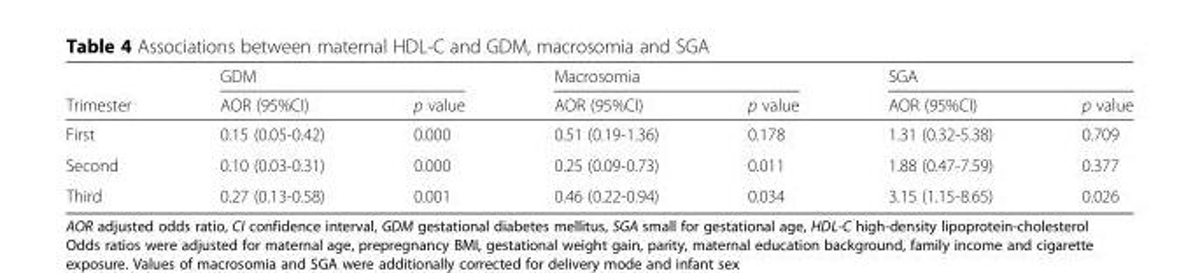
<table><thead><tr><td rowspan="2">Trimester</td><td colspan="2">GDM</td><td colspan="2">Macrosomia</td><td colspan="2">SGA</td></tr><tr><td>AOR (95%CI)</td><td>p value</td><td>AOR (95%CI)</td><td>p value</td><td>AOR (95%CI)</td><td>p value</td></tr></thead><tbody><tr><td>First</td><td>0.15 (0.05-0.42)</td><td>0.000</td><td>0.51 (0.19-1.36)</td><td>0.178</td><td>1.31 (0.32-5.38)</td><td>0.709</td></tr><tr><td>Second</td><td>0.10 (0.03-0.31)</td><td>0.000</td><td>0.25 (0.09-0.73)</td><td>0.011</td><td>1.88 (0.47-7.59)</td><td>0.377</td></tr><tr><td>Third</td><td>0.27 (0.13-0.58)</td><td>0.001</td><td>0.46 (0.22-0.94)</td><td>0.034</td><td>3.15 (1.15-8.65)</td><td>0.026</td></tr></tbody></table>